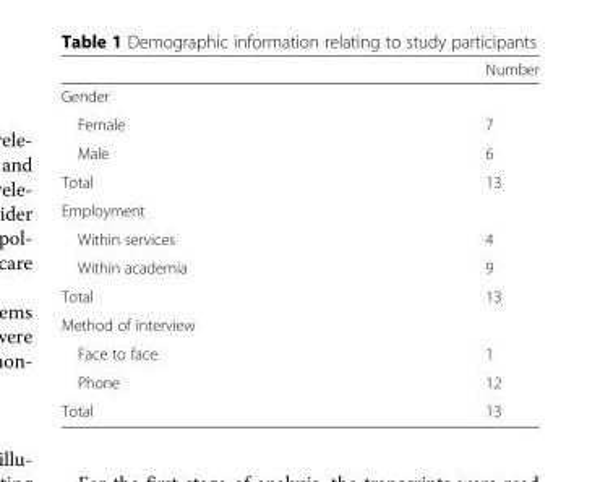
<table><thead><tr><td></td><td>Number</td></tr></thead><tbody><tr><td colspan="2">Gender</td></tr><tr><td>Female</td><td>7</td></tr><tr><td>Male</td><td>6</td></tr><tr><td>Total</td><td>13</td></tr><tr><td colspan="2">Employment</td></tr><tr><td>Within services</td><td>4</td></tr><tr><td>Within academia</td><td>9</td></tr><tr><td>Total</td><td>13</td></tr><tr><td colspan="2">Method of interview</td></tr><tr><td>Face to face</td><td>1</td></tr><tr><td>Phone</td><td>12</td></tr><tr><td>Total</td><td>13</td></tr></tbody></table>